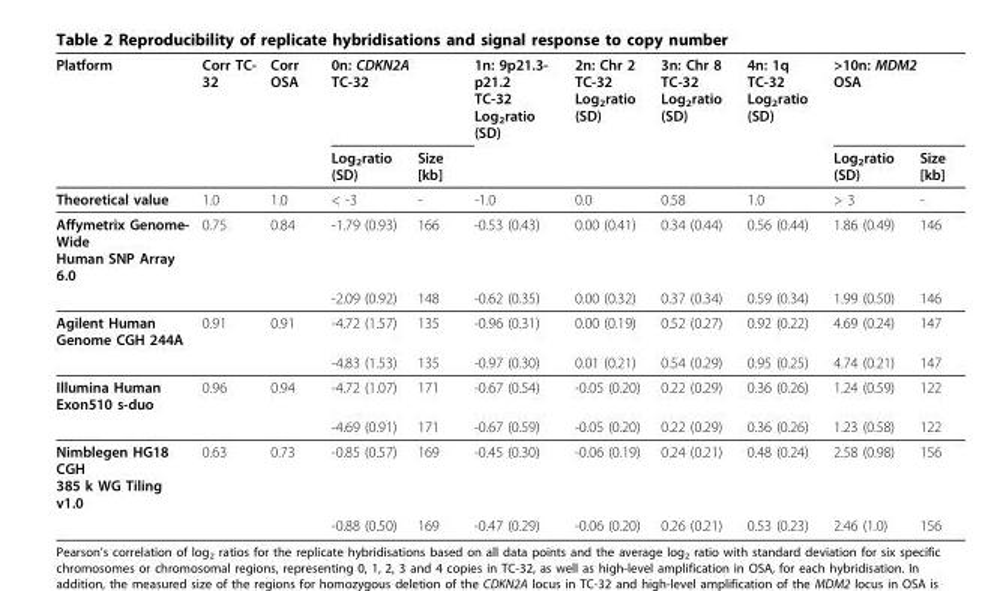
<table><thead><tr><td rowspan="2">Platform</td><td rowspan="2">Corr TC- 32</td><td rowspan="2">Corr OSA</td><td colspan="2">0n: CDKN2A TC-32</td><td rowspan="2">1n: 9p21.3- p21.2 TC-32 Log<sub>2</sub>ratio (SD)</td><td rowspan="2">2n: Chr 2 TC-32 Log<sub>2</sub>ratio (SD)</td><td rowspan="2">3n: Chr 8 TC-32 Log<sub>2</sub>ratio (SD)</td><td rowspan="2">4n: 1q TC-32 Log<sub>2</sub>ratio (SD)</td><td colspan="2">&gt;10n: MDM2 OSA</td></tr><tr><td>Log<sub>2</sub>ratio (SD)</td><td>Size [kb]</td><td>Log<sub>2</sub>ratio (SD)</td><td>Size [kb]</td></tr></thead><tbody><tr><td>Theoretical value</td><td>1.0</td><td>1.0</td><td>&lt; -3</td><td>-</td><td>-1.0</td><td>0.0</td><td>0.58</td><td>1.0</td><td>&gt; 3</td><td>-</td></tr><tr><td rowspan="2">Affymetrix Genome- Wide Human SNP Array 6.0</td><td>0.75</td><td>0.84</td><td>-1.79 (0.93)</td><td>166</td><td>-0.53 (0.43)</td><td>0.00 (0.41)</td><td>0.34 (0.44)</td><td>0.56 (0.44)</td><td>1.86 (0.49)</td><td>146</td></tr><tr><td></td><td></td><td>-2.09 (0.92)</td><td>148</td><td>-0.62 (0.35)</td><td>0.00 (0.32)</td><td>0.37 (0.34)</td><td>0.59 (0.34)</td><td>1.99 (0.50)</td><td>146</td></tr><tr><td rowspan="2">Agilent Human Genome CGH 244A</td><td>0.91</td><td>0.91</td><td>-4.72 (1.57)</td><td>135</td><td>-0.96 (0.31)</td><td>0.00 (0.19)</td><td>0.52 (0.27)</td><td>0.92 (0.22)</td><td>4.69 (0.24)</td><td>147</td></tr><tr><td></td><td></td><td>-4.83 (1.53)</td><td>135</td><td>-0.97 (0.30)</td><td>0.01 (0.21)</td><td>0.54 (0.29)</td><td>0.95 (0.25)</td><td>4.74 (0.21)</td><td>147</td></tr><tr><td rowspan="2">Illumina Human Exon510 s-duo</td><td>0.96</td><td>0.94</td><td>-4.72 (1.07)</td><td>171</td><td>-0.67 (0.54)</td><td>-0.05 (0.20)</td><td>0.22 (0.29)</td><td>0.36 (0.26)</td><td>1.24 (0.59)</td><td>122</td></tr><tr><td></td><td></td><td>-4.69 (0.91)</td><td>171</td><td>-0.67 (0.59)</td><td>-0.05 (0.20)</td><td>0.22 (0.29)</td><td>0.36 (0.26)</td><td>1.23 (0.58)</td><td>122</td></tr><tr><td rowspan="2">Nimblegen HG18 CGH 385 k WG Tiling v1.0</td><td>0.63</td><td>0.73</td><td>-0.85 (0.57)</td><td>169</td><td>-0.45 (0.30)</td><td>-0.06 (0.19)</td><td>0.24 (0.21)</td><td>0.48 (0.24)</td><td>2.58 (0.98)</td><td>156</td></tr><tr><td></td><td></td><td>-0.88 (0.50)</td><td>169</td><td>-0.47 (0.29)</td><td>-0.06 (0.20)</td><td>0.26 (0.21)</td><td>0.53 (0.23)</td><td>2.46 (1.0)</td><td>156</td></tr></tbody></table>